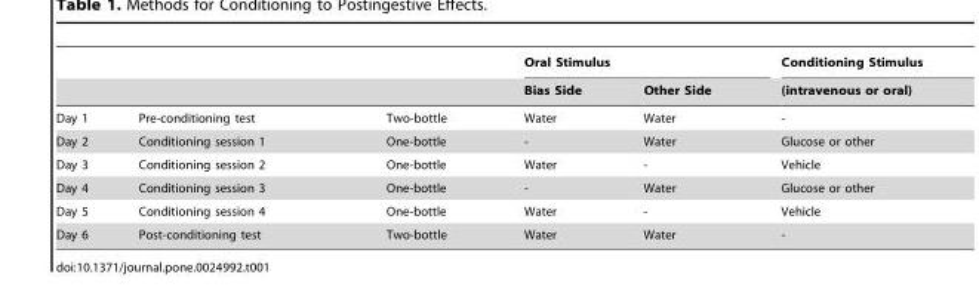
<table><thead><tr><td rowspan="2"></td><td rowspan="2"></td><td rowspan="2"></td><td colspan="2">Oral Stimulus</td><td rowspan="2">Conditioning Stimulus (intravenous or oral)</td></tr><tr><td>Bias Side</td><td>Other Side</td></tr></thead><tbody><tr><td>Day 1</td><td>Pre-conditioning test</td><td>Two-bottle</td><td>Water</td><td>Water</td><td>-</td></tr><tr><td>Day 2</td><td>Conditioning session 1</td><td>One-bottle</td><td>-</td><td>Water</td><td>Glucose or other</td></tr><tr><td>Day 3</td><td>Conditioning session 2</td><td>One-bottle</td><td>Water</td><td>-</td><td>Vehicle</td></tr><tr><td>Day 4</td><td>Conditioning session 3</td><td>One-bottle</td><td>-</td><td>Water</td><td>Glucose or other</td></tr><tr><td>Day 5</td><td>Conditioning session 4</td><td>One-bottle</td><td>Water</td><td>-</td><td>Vehicle</td></tr><tr><td>Day 6</td><td>Post-conditioning test</td><td>Two-bottle</td><td>Water</td><td>Water</td><td>-</td></tr></tbody></table>